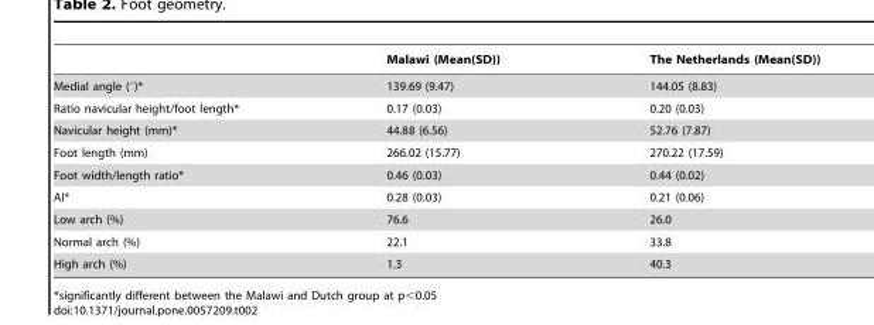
<table><thead><tr><td></td><td>Malawi (Mean(SD))</td><td>The Netherlands (Mean(SD))</td></tr></thead><tbody><tr><td>Medial angle (°)*</td><td>139.69 (9.47)</td><td>144.05 (8.83)</td></tr><tr><td>Ratio navicular height/foot length*</td><td>0.17 (0.03)</td><td>0.20 (0.03)</td></tr><tr><td>Navicular height (mm)*</td><td>44.88 (6.56)</td><td>52.76 (7.87)</td></tr><tr><td>Foot length (mm)</td><td>266.02 (15.77)</td><td>270.22 (17.59)</td></tr><tr><td>Foot width/length ratio*</td><td>0.46 (0.03)</td><td>0.44 (0.02)</td></tr><tr><td>AI*</td><td>0.28 (0.03)</td><td>0.21 (0.06)</td></tr><tr><td>Low arch (%)</td><td>76.6</td><td>26.0</td></tr><tr><td>Normal arch (%)</td><td>22.1</td><td>33.8</td></tr><tr><td>High arch (%)</td><td>1.3</td><td>40.3</td></tr></tbody></table>